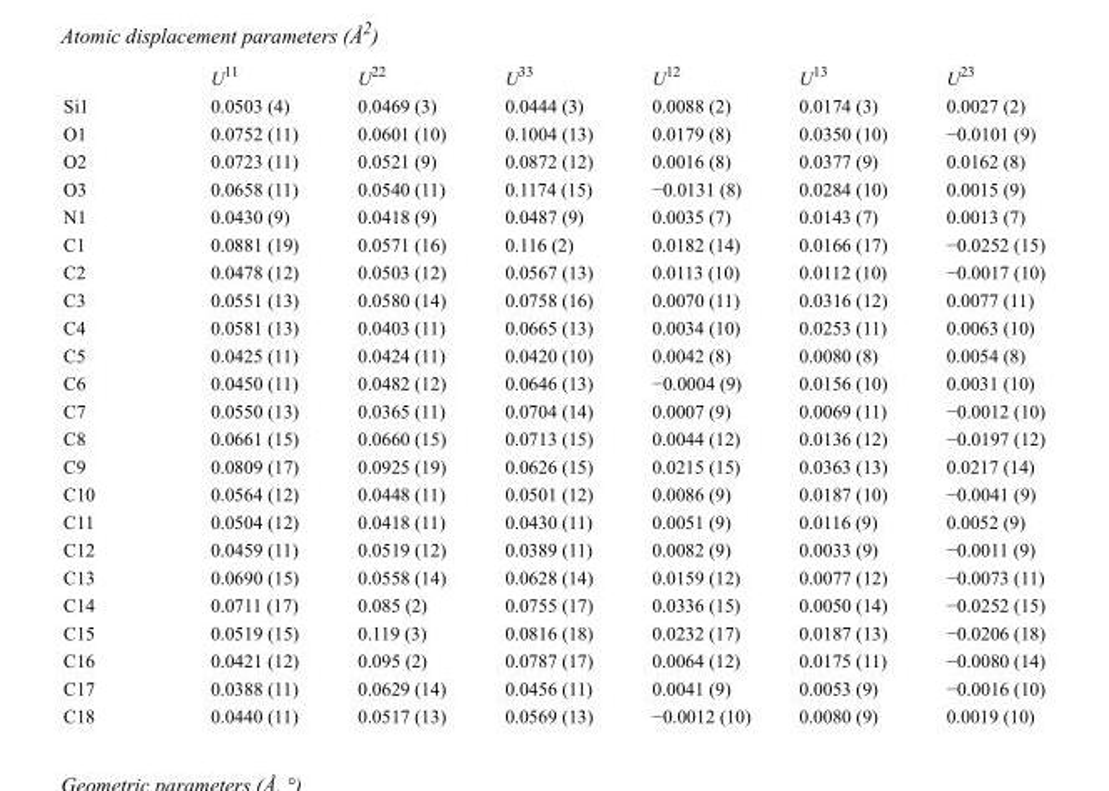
<table><thead><tr><td></td><td>U<sup>11</sup></td><td>U<sup>22</sup></td><td>U<sup>33</sup></td><td>U<sup>12</sup></td><td>U<sup>13</sup></td><td>U<sup>23</sup></td></tr></thead><tbody><tr><td>Si1</td><td>0.0503 (4)</td><td>0.0469 (3)</td><td>0.0444 (3)</td><td>0.0088 (2)</td><td>0.0174 (3)</td><td>0.0027 (2)</td></tr><tr><td>O1</td><td>0.0752 (11)</td><td>0.0601 (10)</td><td>0.1004 (13)</td><td>0.0179 (8)</td><td>0.0350 (10)</td><td>−0.0101 (9)</td></tr><tr><td>O2</td><td>0.0723 (11)</td><td>0.0521 (9)</td><td>0.0872 (12)</td><td>0.0016 (8)</td><td>0.0377 (9)</td><td>0.0162 (8)</td></tr><tr><td>O3</td><td>0.0658 (11)</td><td>0.0540 (11)</td><td>0.1174 (15)</td><td>−0.0131 (8)</td><td>0.0284 (10)</td><td>0.0015 (9)</td></tr><tr><td>N1</td><td>0.0430 (9)</td><td>0.0418 (9)</td><td>0.0487 (9)</td><td>0.0035 (7)</td><td>0.0143 (7)</td><td>0.0013 (7)</td></tr><tr><td>C1</td><td>0.0881 (19)</td><td>0.0571 (16)</td><td>0.116 (2)</td><td>0.0182 (14)</td><td>0.0166 (17)</td><td>−0.0252 (15)</td></tr><tr><td>C2</td><td>0.0478 (12)</td><td>0.0503 (12)</td><td>0.0567 (13)</td><td>0.0113 (10)</td><td>0.0112 (10)</td><td>−0.0017 (10)</td></tr><tr><td>C3</td><td>0.0551 (13)</td><td>0.0580 (14)</td><td>0.0758 (16)</td><td>0.0070 (11)</td><td>0.0316 (12)</td><td>0.0077 (11)</td></tr><tr><td>C4</td><td>0.0581 (13)</td><td>0.0403 (11)</td><td>0.0665 (13)</td><td>0.0034 (10)</td><td>0.0253 (11)</td><td>0.0063 (10)</td></tr><tr><td>C5</td><td>0.0425 (11)</td><td>0.0424 (11)</td><td>0.0420 (10)</td><td>0.0042 (8)</td><td>0.0080 (8)</td><td>0.0054 (8)</td></tr><tr><td>C6</td><td>0.0450 (11)</td><td>0.0482 (12)</td><td>0.0646 (13)</td><td>−0.0004 (9)</td><td>0.0156 (10)</td><td>0.0031 (10)</td></tr><tr><td>C7</td><td>0.0550 (13)</td><td>0.0365 (11)</td><td>0.0704 (14)</td><td>0.0007 (9)</td><td>0.0069 (11)</td><td>−0.0012 (10)</td></tr><tr><td>C8</td><td>0.0661 (15)</td><td>0.0660 (15)</td><td>0.0713 (15)</td><td>0.0044 (12)</td><td>0.0136 (12)</td><td>−0.0197 (12)</td></tr><tr><td>C9</td><td>0.0809 (17)</td><td>0.0925 (19)</td><td>0.0626 (15)</td><td>0.0215 (15)</td><td>0.0363 (13)</td><td>0.0217 (14)</td></tr><tr><td>C10</td><td>0.0564 (12)</td><td>0.0448 (11)</td><td>0.0501 (12)</td><td>0.0086 (9)</td><td>0.0187 (10)</td><td>−0.0041 (9)</td></tr><tr><td>C11</td><td>0.0504 (12)</td><td>0.0418 (11)</td><td>0.0430 (11)</td><td>0.0051 (9)</td><td>0.0116 (9)</td><td>0.0052 (9)</td></tr><tr><td>C12</td><td>0.0459 (11)</td><td>0.0519 (12)</td><td>0.0389 (11)</td><td>0.0082 (9)</td><td>0.0033 (9)</td><td>−0.0011 (9)</td></tr><tr><td>C13</td><td>0.0690 (15)</td><td>0.0558 (14)</td><td>0.0628 (14)</td><td>0.0159 (12)</td><td>0.0077 (12)</td><td>−0.0073 (11)</td></tr><tr><td>C14</td><td>0.0711 (17)</td><td>0.085 (2)</td><td>0.0755 (17)</td><td>0.0336 (15)</td><td>0.0050 (14)</td><td>−0.0252 (15)</td></tr><tr><td>C15</td><td>0.0519 (15)</td><td>0.119 (3)</td><td>0.0816 (18)</td><td>0.0232 (17)</td><td>0.0187 (13)</td><td>−0.0206 (18)</td></tr><tr><td>C16</td><td>0.0421 (12)</td><td>0.095 (2)</td><td>0.0787 (17)</td><td>0.0064 (12)</td><td>0.0175 (11)</td><td>−0.0080 (14)</td></tr><tr><td>C17</td><td>0.0388 (11)</td><td>0.0629 (14)</td><td>0.0456 (11)</td><td>0.0041 (9)</td><td>0.0053 (9)</td><td>−0.0016 (10)</td></tr><tr><td>C18</td><td>0.0440 (11)</td><td>0.0517 (13)</td><td>0.0569 (13)</td><td>−0.0012 (10)</td><td>0.0080 (9)</td><td>0.0019 (10)</td></tr></tbody></table>